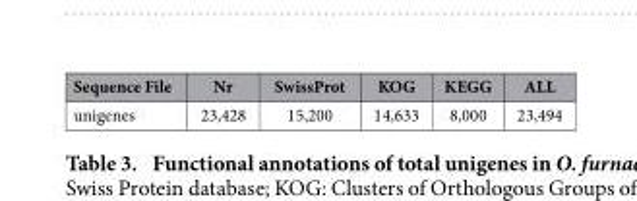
<table><thead><tr><td>Sequence File</td><td>Nr</td><td>SwissProt</td><td>KOG</td><td>KEGG</td><td>ALL</td></tr></thead><tbody><tr><td>unigenes</td><td>23,428</td><td>15,200</td><td>14,633</td><td>8,000</td><td>23,494</td></tr></tbody></table>